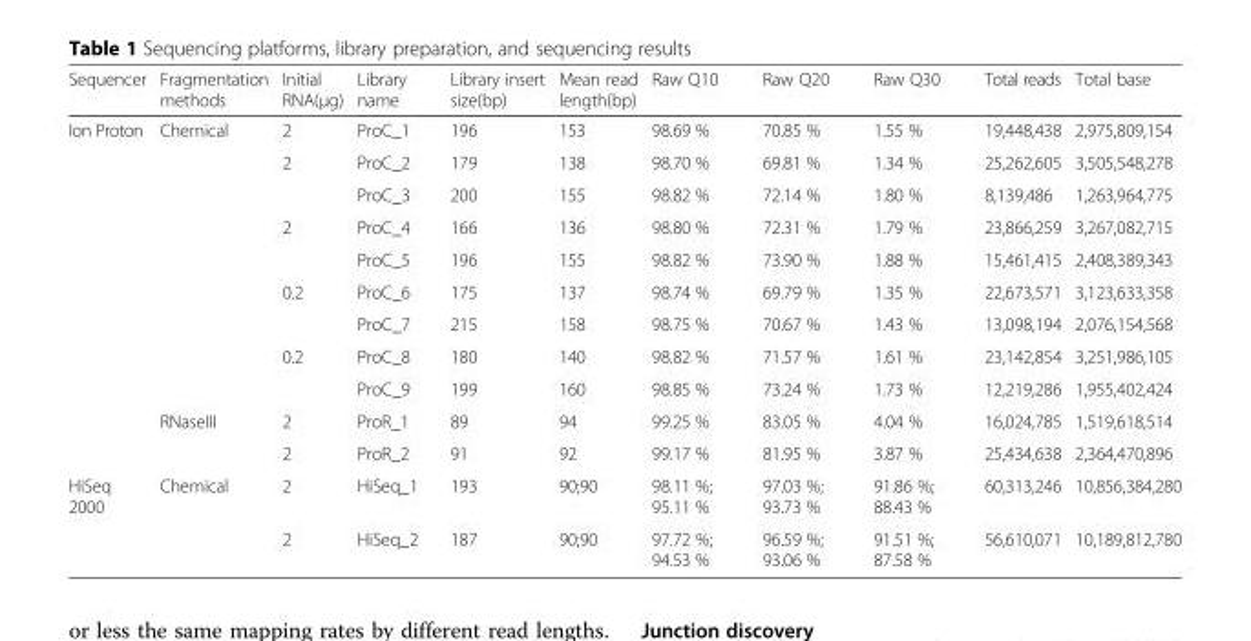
<table><thead><tr><td>Sequencer</td><td>Fragmentation methods</td><td>Initial RNA(μg)</td><td>Library name</td><td>Library insert size(bp)</td><td>Mean read length(bp)</td><td>Raw Q10</td><td>Raw Q20</td><td>Raw Q30</td><td>Total reads</td><td>Total base</td></tr></thead><tbody><tr><td rowspan="11">Ion Proton</td><td rowspan="9">Chemical</td><td>2</td><td>ProC_1</td><td>196</td><td>153</td><td>98.69 %</td><td>70.85 %</td><td>1.55 %</td><td>19,448,438</td><td>2,975,809,154</td></tr><tr><td rowspan="2">2</td><td>ProC_2</td><td>179</td><td>138</td><td>98.70 %</td><td>69.81 %</td><td>1.34 %</td><td>25,262,605</td><td>3,505,548,278</td></tr><tr><td>ProC_3</td><td>200</td><td>155</td><td>98.82 %</td><td>72.14 %</td><td>1.80 %</td><td>8,139,486</td><td>1,263,964,775</td></tr><tr><td rowspan="2">2</td><td>ProC_4</td><td>166</td><td>136</td><td>98.80 %</td><td>72.31 %</td><td>1.79 %</td><td>23,866,259</td><td>3,267,082,715</td></tr><tr><td>ProC_5</td><td>196</td><td>155</td><td>98.82 %</td><td>73.90 %</td><td>1.88 %</td><td>15,461,415</td><td>2,408,389,343</td></tr><tr><td rowspan="2">0.2</td><td>ProC_6</td><td>175</td><td>137</td><td>98.74 %</td><td>69.79 %</td><td>1.35 %</td><td>22,673,571</td><td>3,123,633,358</td></tr><tr><td>ProC_7</td><td>215</td><td>158</td><td>98.75 %</td><td>70.67 %</td><td>1.43 %</td><td>13,098,194</td><td>2,076,154,568</td></tr><tr><td rowspan="2">0.2</td><td>ProC_8</td><td>180</td><td>140</td><td>98.82 %</td><td>71.57 %</td><td>1.61 %</td><td>23,142,854</td><td>3,251,986,105</td></tr><tr><td>ProC_9</td><td>199</td><td>160</td><td>98.85 %</td><td>73.24 %</td><td>1.73 %</td><td>12,219,286</td><td>1,955,402,424</td></tr><tr><td rowspan="2">RNaseIII</td><td>2</td><td>ProR_1</td><td>89</td><td>94</td><td>99.25 %</td><td>83.05 %</td><td>4.04 %</td><td>16,024,785</td><td>1,519,618,514</td></tr><tr><td>2</td><td>ProR_2</td><td>91</td><td>92</td><td>99.17 %</td><td>81.95 %</td><td>3.87 %</td><td>25,434,638</td><td>2,364,470,896</td></tr><tr><td rowspan="2">HiSeq 2000</td><td rowspan="2">Chemical</td><td>2</td><td>HiSeq_1</td><td>193</td><td>90;90</td><td>98.11 %; 95.11 %</td><td>97.03 %; 93.73 %</td><td>91.86 %; 88.43 %</td><td>60,313,246</td><td>10,856,384,280</td></tr><tr><td>2</td><td>HiSeq_2</td><td>187</td><td>90;90</td><td>97.72 %; 94.53 %</td><td>96.59 %; 93.06 %</td><td>91.51 %; 87.58 %</td><td>56,610,071</td><td>10,189,812,780</td></tr></tbody></table>